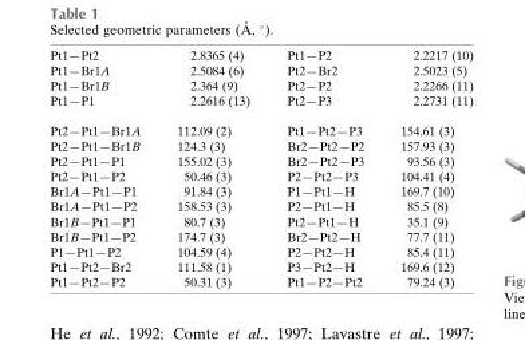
<table><tbody><tr><td>Pt1—Pt2</td><td>2.8365 (4)</td><td>Pt1—P2</td><td>2.2217 (10)</td></tr><tr><td>Pt1—Br1A</td><td>2.5084 (6)</td><td>Pt2—Br2</td><td>2.5023 (5)</td></tr><tr><td>Pt1—Br1B</td><td>2.364 (9)</td><td>Pt2—P2</td><td>2.2266 (11)</td></tr><tr><td>Pt1—P1</td><td>2.2616 (13)</td><td>Pt2—P3</td><td>2.2731 (11)</td></tr><tr><td>Pt2—Pt1—Br1A</td><td>112.09 (2)</td><td>Pt1—Pt2—P3</td><td>154.61 (3)</td></tr><tr><td>Pt2—Pt1—Br1B</td><td>124.3 (3)</td><td>Br2—Pt2—P2</td><td>157.93 (3)</td></tr><tr><td>Pt2—Pt1—P1</td><td>155.02 (3)</td><td>Br2—Pt2—P3</td><td>93.56 (3)</td></tr><tr><td>Pt2—Pt1—P2</td><td>50.46 (3)</td><td>P2—Pt2—P3</td><td>104.41 (4)</td></tr><tr><td>Br1A—Pt1—P1</td><td>91.84 (3)</td><td>P1—Pt1—H</td><td>169.7 (10)</td></tr><tr><td>Br1A—Pt1—P2</td><td>158.53 (3)</td><td>P2—Pt1—H</td><td>85.5 (8)</td></tr><tr><td>Br1B—Pt1—P1</td><td>80.7 (3)</td><td>Pt2—Pt1—H</td><td>35.1 (9)</td></tr><tr><td>Br1B—Pt1—P2</td><td>174.7 (3)</td><td>Br2—Pt2—H</td><td>77.7 (11)</td></tr><tr><td>P1—Pt1—P2</td><td>104.59 (4)</td><td>P2—Pt2—H</td><td>85.4 (11)</td></tr><tr><td>Pt1—Pt2—Br2</td><td>111.58 (1)</td><td>P3—Pt2—H</td><td>169.6 (12)</td></tr><tr><td>Pt1—Pt2—P2</td><td>50.31 (3)</td><td>Pt1—P2—Pt2</td><td>79.24 (3)</td></tr></tbody></table>